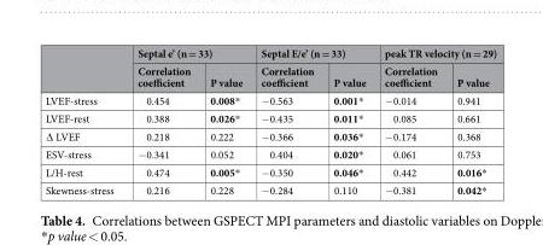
<table><thead><tr><td rowspan="2"></td><td colspan="2">Septal e’ (n = 33)</td><td colspan="2">Septal E/e’ (n = 33)</td><td colspan="2">peak TR velocity (n = 29)</td></tr><tr><td>Correlation coefficient</td><td>P value</td><td>Correlation coefficient</td><td>P value</td><td>Correlation coefficient</td><td>P value</td></tr></thead><tbody><tr><td>LVEF-stress</td><td>0.454</td><td>0.008*</td><td>−0.563</td><td>0.001*</td><td>−0.014</td><td>0.941</td></tr><tr><td>LVEF-rest</td><td>0.388</td><td>0.026*</td><td>−0.435</td><td>0.011*</td><td>0.085</td><td>0.661</td></tr><tr><td>∆ LVEF</td><td>0.218</td><td>0.222</td><td>−0.366</td><td>0.036*</td><td>−0.174</td><td>0.368</td></tr><tr><td>ESV-stress</td><td>−0.341</td><td>0.052</td><td>0.404</td><td>0.020*</td><td>0.061</td><td>0.753</td></tr><tr><td>L/H-rest</td><td>0.474</td><td>0.005*</td><td>−0.350</td><td>0.046*</td><td>0.442</td><td>0.016*</td></tr><tr><td>Skewness-stress</td><td>0.216</td><td>0.228</td><td>−0.284</td><td>0.110</td><td>−0.381</td><td>0.042*</td></tr></tbody></table>